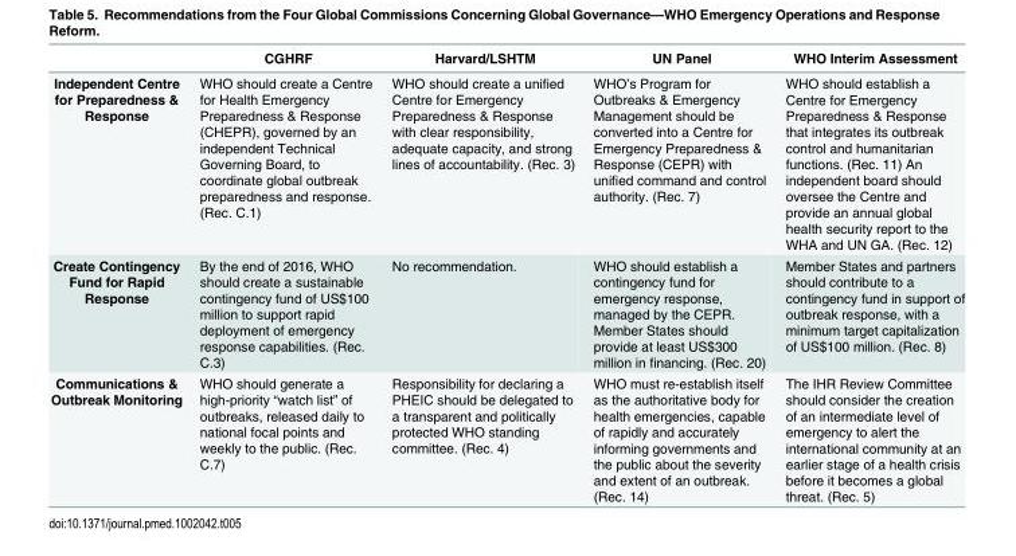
<table><thead><tr><td></td><td>CGHRF</td><td>Harvard/LSHTM</td><td>UN Panel</td><td>WHO Interim Assessment</td></tr></thead><tbody><tr><td>Independent Centre for Preparedness &amp; Response</td><td>WHO should create a Centre for Health Emergency Preparedness &amp; Response (CHEPR), governed by an independent Technical Governing Board, to coordinate global outbreak preparedness and response. (Rec. C.1)</td><td>WHO should create a unified Centre for Emergency Preparedness &amp; Response with clear responsibility, adequate capacity, and strong lines of accountability. (Rec. 3)</td><td>WHO’s Program for Outbreaks &amp; Emergency Management should be converted into a Centre for Emergency Preparedness &amp; Response (CEPR) with unified command and control authority. (Rec. 7)</td><td>WHO should establish a Centre for Emergency Preparedness &amp; Response that integrates its outbreak control and humanitarian functions. (Rec. 11) An independent board should oversee the Centre and provide an annual global health security report to the WHA and UN GA. (Rec. 12)</td></tr><tr><td>Create Contingency Fund for Rapid Response</td><td>By the end of 2016, WHO should create a sustainable contingency fund of US$100 million to support rapid deployment of emergency response capabilities. (Rec. C.3)</td><td>No recommendation.</td><td>WHO should establish a contingency fund for emergency response, managed by the CEPR. Member States should provide at least US$300 million in financing. (Rec. 20)</td><td>Member States and partners should contribute to a contingency fund in support of outbreak response, with a minimum target capitalization of US$100 million. (Rec. 8)</td></tr><tr><td>Communications &amp; Outbreak Monitoring</td><td>WHO should generate a high-priority “watch list” of outbreaks, released daily to national focal points and weekly to the public. (Rec. C.7)</td><td>Responsibility for declaring a PHEIC should be delegated to a transparent and politically protected WHO standing committee. (Rec. 4)</td><td>WHO must re-establish itself as the authoritative body for health emergencies, capable of rapidly and accurately informing governments and the public about the severity and extent of an outbreak. (Rec. 14)</td><td>The IHR Review Committee should consider the creation of an intermediate level of emergency to alert the international community at an earlier stage of a health crisis before it becomes a global threat. (Rec. 5)</td></tr></tbody></table>